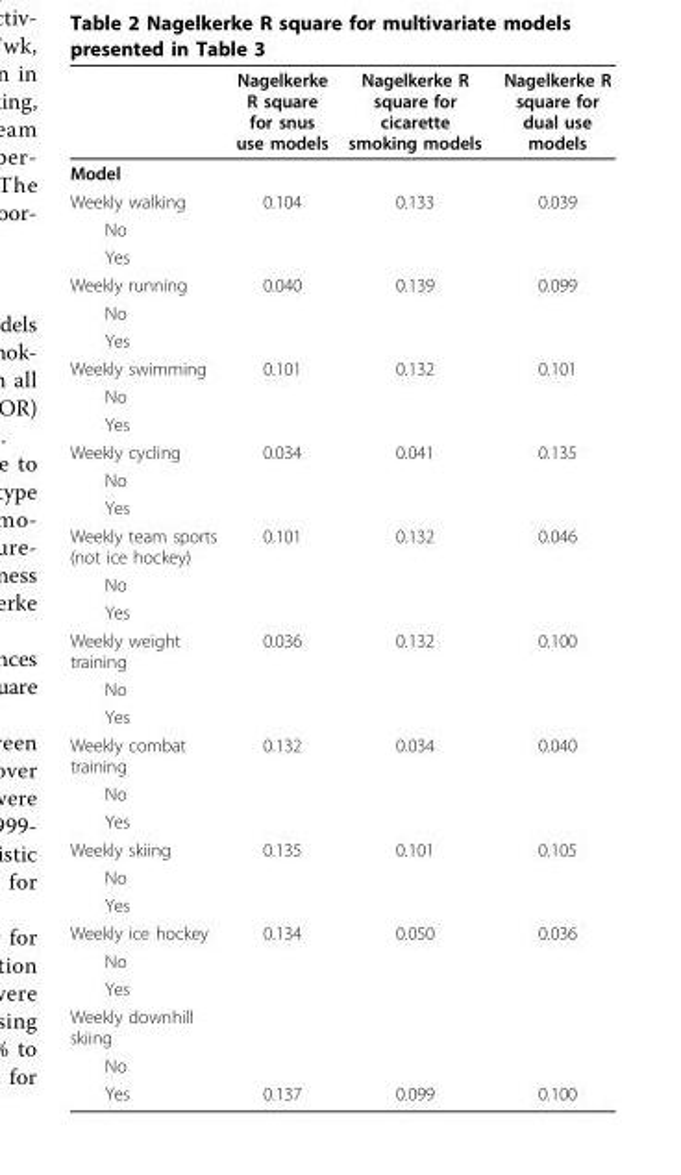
<table><thead><tr><td></td><td>Nagelkerke R square for snus use models</td><td>Nagelkerke R square for cicarette smoking models</td><td>Nagelkerke R square for dual use models</td></tr></thead><tbody><tr><td colspan="4">Model</td></tr><tr><td>Weekly walking</td><td>0.104</td><td>0.133</td><td>0.039</td></tr><tr><td colspan="4">No</td></tr><tr><td colspan="4">Yes</td></tr><tr><td>Weekly running</td><td>0.040</td><td>0.139</td><td>0.099</td></tr><tr><td colspan="4">No</td></tr><tr><td colspan="4">Yes</td></tr><tr><td>Weekly swimming</td><td>0.101</td><td>0.132</td><td>0.101</td></tr><tr><td colspan="4">No</td></tr><tr><td colspan="4">Yes</td></tr><tr><td>Weekly cycling</td><td>0.034</td><td>0.041</td><td>0.135</td></tr><tr><td colspan="4">No</td></tr><tr><td colspan="4">Yes</td></tr><tr><td>Weekly team sports (not ice hockey)</td><td>0.101</td><td>0.132</td><td>0.046</td></tr><tr><td colspan="4">No</td></tr><tr><td colspan="4">Yes</td></tr><tr><td>Weekly weight training</td><td>0.036</td><td>0.132</td><td>0.100</td></tr><tr><td colspan="4">No</td></tr><tr><td colspan="4">Yes</td></tr><tr><td>Weekly combat training</td><td>0.132</td><td>0.034</td><td>0.040</td></tr><tr><td colspan="4">No</td></tr><tr><td colspan="4">Yes</td></tr><tr><td>Weekly skiing</td><td>0.135</td><td>0.101</td><td>0.105</td></tr><tr><td colspan="4">No</td></tr><tr><td colspan="4">Yes</td></tr><tr><td>Weekly ice hockey</td><td>0.134</td><td>0.050</td><td>0.036</td></tr><tr><td colspan="4">No</td></tr><tr><td colspan="4">Yes</td></tr><tr><td colspan="4">Weekly downhill skiing</td></tr><tr><td colspan="4">No</td></tr><tr><td>Yes</td><td>0.137</td><td>0.099</td><td>0.100</td></tr></tbody></table>